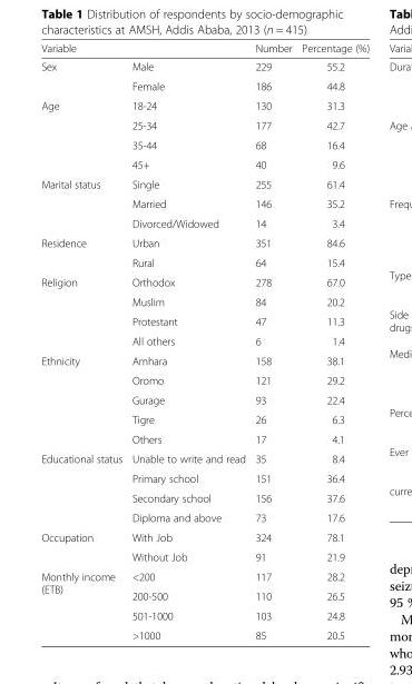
<table><thead><tr><td>Variable</td><td></td><td>Number</td><td>Percentage (%)</td></tr></thead><tbody><tr><td rowspan="2">Sex</td><td>Male</td><td>229</td><td>55.2</td></tr><tr><td>Female</td><td>186</td><td>44.8</td></tr><tr><td rowspan="4">Age</td><td>18-24</td><td>130</td><td>31.3</td></tr><tr><td>25-34</td><td>177</td><td>42.7</td></tr><tr><td>35-44</td><td>68</td><td>16.4</td></tr><tr><td>45+</td><td>40</td><td>9.6</td></tr><tr><td rowspan="3">Marital status</td><td>Single</td><td>255</td><td>61.4</td></tr><tr><td>Married</td><td>146</td><td>35.2</td></tr><tr><td>Divorced/Widowed</td><td>14</td><td>3.4</td></tr><tr><td rowspan="2">Residence</td><td>Urban</td><td>351</td><td>84.6</td></tr><tr><td>Rural</td><td>64</td><td>15.4</td></tr><tr><td rowspan="4">Religion</td><td>Orthodox</td><td>278</td><td>67.0</td></tr><tr><td>Muslim</td><td>84</td><td>20.2</td></tr><tr><td>Protestant</td><td>47</td><td>11.3</td></tr><tr><td>All others</td><td>6</td><td>1.4</td></tr><tr><td rowspan="5">Ethnicity</td><td>Amhara</td><td>158</td><td>38.1</td></tr><tr><td>Oromo</td><td>121</td><td>29.2</td></tr><tr><td>Gurage</td><td>93</td><td>22.4</td></tr><tr><td>Tigre</td><td>26</td><td>6.3</td></tr><tr><td>Others</td><td>17</td><td>4.1</td></tr><tr><td rowspan="4">Educational status</td><td>Unable to write and read</td><td>35</td><td>8.4</td></tr><tr><td>Primary school</td><td>151</td><td>36.4</td></tr><tr><td>Secondary school</td><td>156</td><td>37.6</td></tr><tr><td>Diploma and above</td><td>73</td><td>17.6</td></tr><tr><td rowspan="2">Occupation</td><td>With Job</td><td>324</td><td>78.1</td></tr><tr><td>Without Job</td><td>91</td><td>21.9</td></tr><tr><td rowspan="4">Monthly income (ETB)</td><td>&lt;200</td><td>117</td><td>28.2</td></tr><tr><td>200-500</td><td>110</td><td>26.5</td></tr><tr><td>501-1000</td><td>103</td><td>24.8</td></tr><tr><td>&gt;1000</td><td>85</td><td>20.5</td></tr></tbody></table>